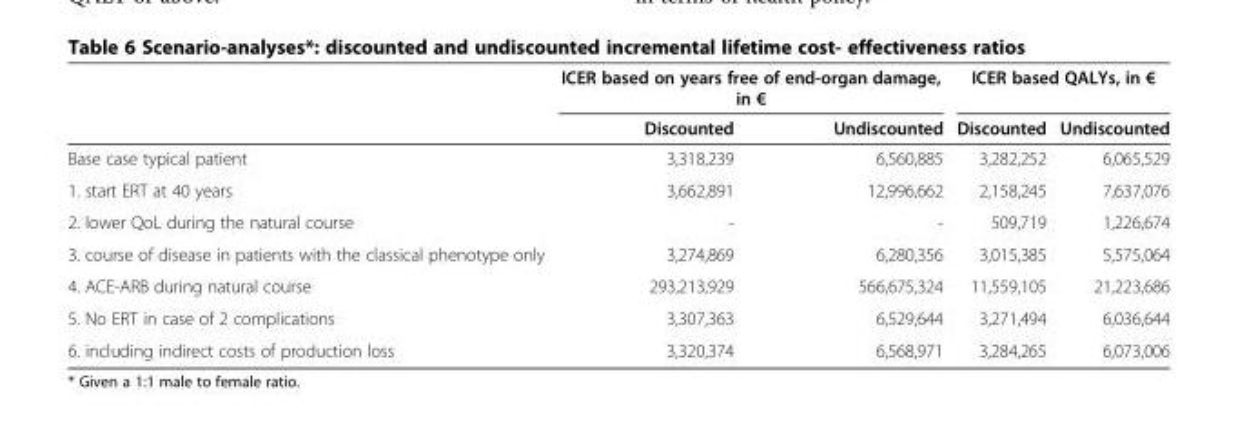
<table><thead><tr><td rowspan="2"></td><td colspan="2">ICER based on years free of end-organ damage, in €</td><td colspan="2">ICER based QALYs, in €</td></tr><tr><td>Discounted</td><td>Undiscounted</td><td>Discounted</td><td>Undiscounted</td></tr></thead><tbody><tr><td>Base case typical patient</td><td>3,318,239</td><td>6,560,885</td><td>3,282,252</td><td>6,065,529</td></tr><tr><td>1. start ERT at 40 years</td><td>3,662,891</td><td>12,996,662</td><td>2,158,245</td><td>7,637,076</td></tr><tr><td>2. lower QoL during the natural course</td><td>-</td><td>-</td><td>509,719</td><td>1,226,674</td></tr><tr><td>3. course of disease in patients with the classical phenotype only</td><td>3,274,869</td><td>6,280,356</td><td>3,015,385</td><td>5,575,064</td></tr><tr><td>4. ACE-ARB during natural course</td><td>293,213,929</td><td>566,675,324</td><td>11,559,105</td><td>21,223,686</td></tr><tr><td>5. No ERT in case of 2 complications</td><td>3,307,363</td><td>6,529,644</td><td>3,271,494</td><td>6,036,644</td></tr><tr><td>6. including indirect costs of production loss</td><td>3,320,374</td><td>6,568,971</td><td>3,284,265</td><td>6,073,006</td></tr></tbody></table>